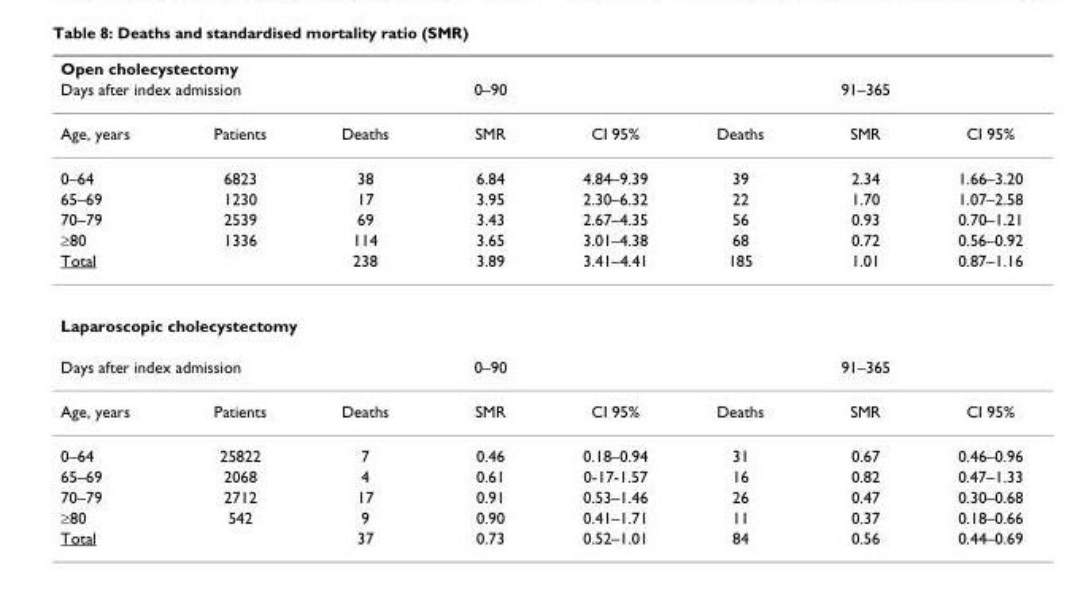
<table><thead><tr><td colspan="8">Open cholecystectomy</td></tr><tr><td colspan="2">Days after index admission</td><td colspan="3">0–90</td><td colspan="3">91–365</td></tr><tr><td>Age, years</td><td>Patients</td><td>Deaths</td><td>SMR</td><td>CI 95%</td><td>Deaths</td><td>SMR</td><td>CI 95%</td></tr></thead><tbody><tr><td>0–64</td><td>6823</td><td>38</td><td>6.84</td><td>4.84–9.39</td><td>39</td><td>2.34</td><td>1.66–3.20</td></tr><tr><td>65–69</td><td>1230</td><td>17</td><td>3.95</td><td>2.30–6.32</td><td>22</td><td>1.70</td><td>1.07–2.58</td></tr><tr><td>70–79</td><td>2539</td><td>69</td><td>3.43</td><td>2.67–4.35</td><td>56</td><td>0.93</td><td>0.70–1.21</td></tr><tr><td>≥80</td><td>1336</td><td>114</td><td>3.65</td><td>3.01–4.38</td><td>68</td><td>0.72</td><td>0.56–0.92</td></tr><tr><td>Total</td><td></td><td>238</td><td>3.89</td><td>3.41–4.41</td><td>185</td><td>1.01</td><td>0.87–1.16</td></tr><tr><td colspan="8">Laparoscopic cholecystectomy</td></tr><tr><td colspan="2">Days after index admission</td><td colspan="3">0–90</td><td colspan="3">91–365</td></tr><tr><td>Age, years</td><td>Patients</td><td>Deaths</td><td>SMR</td><td>CI 95%</td><td>Deaths</td><td>SMR</td><td>CI 95%</td></tr><tr><td>0–64</td><td>25822</td><td>7</td><td>0.46</td><td>0.18–0.94</td><td>31</td><td>0.67</td><td>0.46–0.96</td></tr><tr><td>65–69</td><td>2068</td><td>4</td><td>0.61</td><td>0-17-1.57</td><td>16</td><td>0.82</td><td>0.47–1.33</td></tr><tr><td>70–79</td><td>2712</td><td>17</td><td>0.91</td><td>0.53–1.46</td><td>26</td><td>0.47</td><td>0.30–0.68</td></tr><tr><td>≥80</td><td>542</td><td>9</td><td>0.90</td><td>0.41–1.71</td><td>11</td><td>0.37</td><td>0.18–0.66</td></tr><tr><td>Total</td><td></td><td>37</td><td>0.73</td><td>0.52–1.01</td><td>84</td><td>0.56</td><td>0.44–0.69</td></tr></tbody></table>